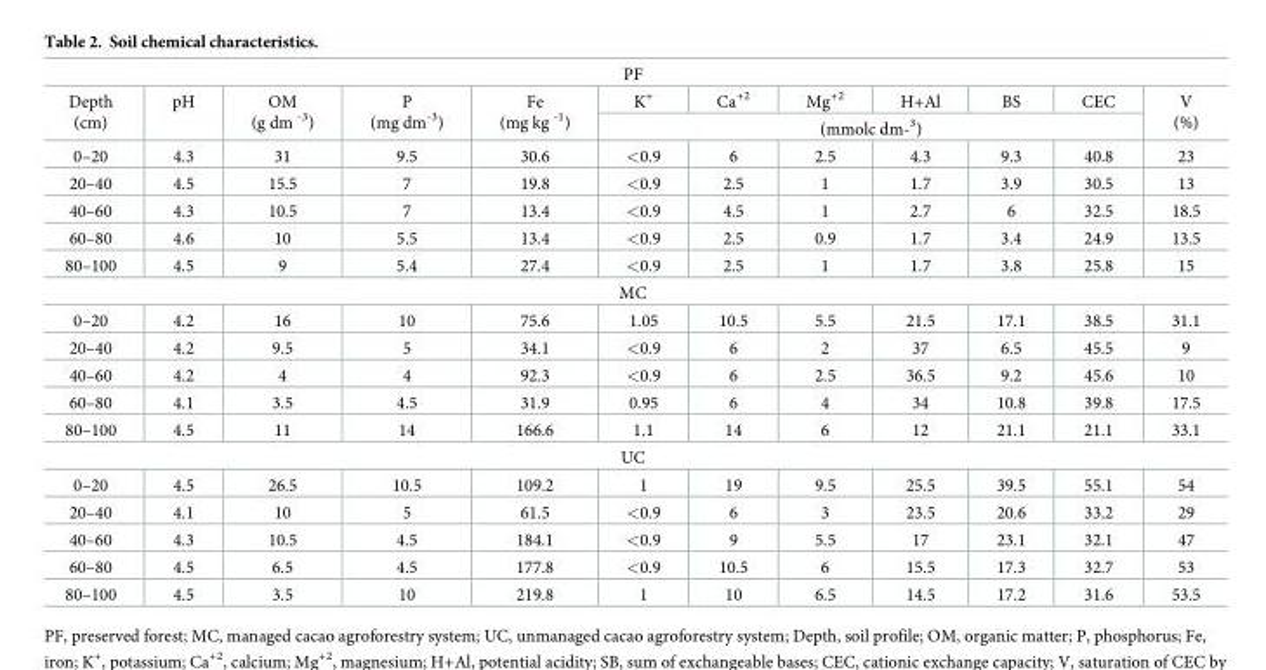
<table><tbody><tr><td colspan="12">PF</td></tr><tr><td rowspan="2">Depth (cm)</td><td rowspan="2">pH</td><td rowspan="2">OM (g dm <sup>-3</sup>)</td><td rowspan="2">P (mg dm<sup>-3</sup>)</td><td rowspan="2">Fe (mg kg <sup>-1</sup>)</td><td>K<sup>+</sup></td><td>Ca<sup>+2</sup></td><td>Mg<sup>+2</sup></td><td>H+Al</td><td>BS</td><td>CEC</td><td rowspan="2">V (%)</td></tr><tr><td colspan="6">(mmolc dm-<sup>3</sup>)</td></tr><tr><td>0–20</td><td>4.3</td><td>31</td><td>9.5</td><td>30.6</td><td>&lt;0.9</td><td>6</td><td>2.5</td><td>4.3</td><td>9.3</td><td>40.8</td><td>23</td></tr><tr><td>20–40</td><td>4.5</td><td>15.5</td><td>7</td><td>19.8</td><td>&lt;0.9</td><td>2.5</td><td>1</td><td>1.7</td><td>3.9</td><td>30.5</td><td>13</td></tr><tr><td>40–60</td><td>4.3</td><td>10.5</td><td>7</td><td>13.4</td><td>&lt;0.9</td><td>4.5</td><td>1</td><td>2.7</td><td>6</td><td>32.5</td><td>18.5</td></tr><tr><td>60–80</td><td>4.6</td><td>10</td><td>5.5</td><td>13.4</td><td>&lt;0.9</td><td>2.5</td><td>0.9</td><td>1.7</td><td>3.4</td><td>24.9</td><td>13.5</td></tr><tr><td>80–100</td><td>4.5</td><td>9</td><td>5.4</td><td>27.4</td><td>&lt;0.9</td><td>2.5</td><td>1</td><td>1.7</td><td>3.8</td><td>25.8</td><td>15</td></tr><tr><td colspan="12">MC</td></tr><tr><td>0–20</td><td>4.2</td><td>16</td><td>10</td><td>75.6</td><td>1.05</td><td>10.5</td><td>5.5</td><td>21.5</td><td>17.1</td><td>38.5</td><td>31.1</td></tr><tr><td>20–40</td><td>4.2</td><td>9.5</td><td>5</td><td>34.1</td><td>&lt;0.9</td><td>6</td><td>2</td><td>37</td><td>6.5</td><td>45.5</td><td>9</td></tr><tr><td>40–60</td><td>4.2</td><td>4</td><td>4</td><td>92.3</td><td>&lt;0.9</td><td>6</td><td>2.5</td><td>36.5</td><td>9.2</td><td>45.6</td><td>10</td></tr><tr><td>60–80</td><td>4.1</td><td>3.5</td><td>4.5</td><td>31.9</td><td>0.95</td><td>6</td><td>4</td><td>34</td><td>10.8</td><td>39.8</td><td>17.5</td></tr><tr><td>80–100</td><td>4.5</td><td>11</td><td>14</td><td>166.6</td><td>1.1</td><td>14</td><td>6</td><td>12</td><td>21.1</td><td>21.1</td><td>33.1</td></tr><tr><td colspan="12">UC</td></tr><tr><td>0–20</td><td>4.5</td><td>26.5</td><td>10.5</td><td>109.2</td><td>1</td><td>19</td><td>9.5</td><td>25.5</td><td>39.5</td><td>55.1</td><td>54</td></tr><tr><td>20–40</td><td>4.1</td><td>10</td><td>5</td><td>61.5</td><td>&lt;0.9</td><td>6</td><td>3</td><td>23.5</td><td>20.6</td><td>33.2</td><td>29</td></tr><tr><td>40–60</td><td>4.3</td><td>10.5</td><td>4.5</td><td>184.1</td><td>&lt;0.9</td><td>9</td><td>5.5</td><td>17</td><td>23.1</td><td>32.1</td><td>47</td></tr><tr><td>60–80</td><td>4.5</td><td>6.5</td><td>4.5</td><td>177.8</td><td>&lt;0.9</td><td>10.5</td><td>6</td><td>15.5</td><td>17.3</td><td>32.7</td><td>53</td></tr><tr><td>80–100</td><td>4.5</td><td>3.5</td><td>10</td><td>219.8</td><td>1</td><td>10</td><td>6.5</td><td>14.5</td><td>17.2</td><td>31.6</td><td>53.5</td></tr></tbody></table>